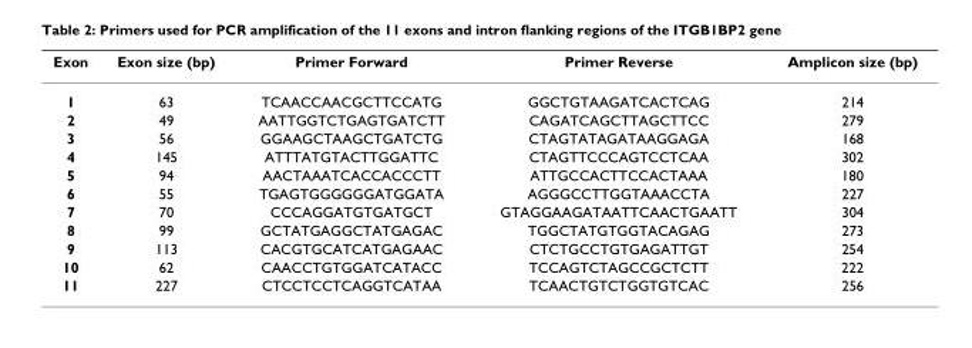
<table><thead><tr><td>Exon</td><td>Exon size (bp)</td><td>Primer Forward</td><td>Primer Reverse</td><td>Amplicon size (bp)</td></tr></thead><tbody><tr><td>1</td><td>63</td><td>TCAACCAACGCTTCCATG</td><td>GGCTGTAAGATCACTCAG</td><td>214</td></tr><tr><td>2</td><td>49</td><td>AATTGGTCTGAGTGATCTT</td><td>CAGATCAGCTTAGCTTCC</td><td>279</td></tr><tr><td>3</td><td>56</td><td>GGAAGCTAAGCTGATCTG</td><td>CTAGTATAGATAAGGAGA</td><td>168</td></tr><tr><td>4</td><td>145</td><td>ATTTATGTACTTGGATTC</td><td>CTAGTTCCCAGTCCTCAA</td><td>302</td></tr><tr><td>5</td><td>94</td><td>AACTAAATCACCACCCTT</td><td>ATTGCCACTTCCACTAAA</td><td>180</td></tr><tr><td>6</td><td>55</td><td>TGAGTGGGGGGATGGATA</td><td>AGGGCCTTGGTAAACCTA</td><td>227</td></tr><tr><td>7</td><td>70</td><td>CCCAGGATGTGATGCT</td><td>GTAGGAAGATAATTCAACTGAATT</td><td>304</td></tr><tr><td>8</td><td>99</td><td>GCTATGAGGCTATGAGAC</td><td>TGGCTATGTGGTACAGAG</td><td>273</td></tr><tr><td>9</td><td>113</td><td>CACGTGCATCATGAGAAC</td><td>CTCTGCCTGTGAGATTGT</td><td>254</td></tr><tr><td>10</td><td>62</td><td>CAACCTGTGGATCATACC</td><td>TCCAGTCTAGCCGCTCTT</td><td>222</td></tr><tr><td>11</td><td>227</td><td>CTCCTCCTCAGGTCATAA</td><td>TCAACTGTCTGGTGTCAC</td><td>256</td></tr></tbody></table>